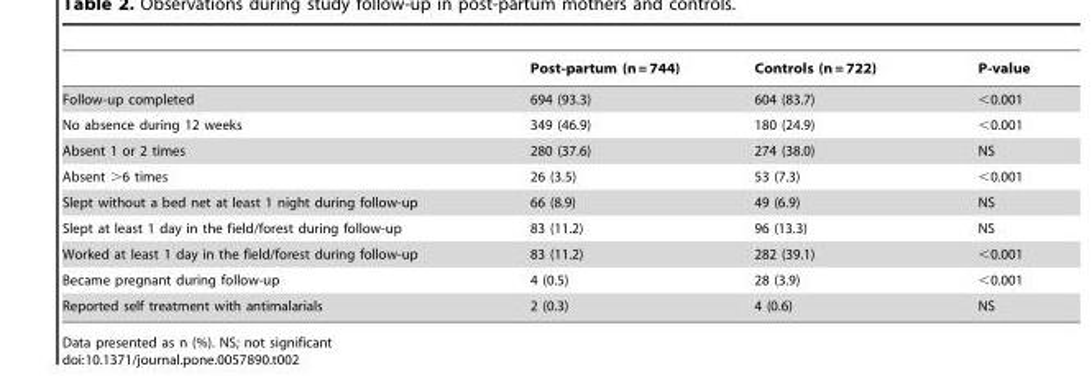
<table><thead><tr><td></td><td>Post-partum (n = 744)</td><td>Controls (n = 722)</td><td>P-value</td></tr></thead><tbody><tr><td>Follow-up completed</td><td>694 (93.3)</td><td>604 (83.7)</td><td>&lt;0.001</td></tr><tr><td>No absence during 12 weeks</td><td>349 (46.9)</td><td>180 (24.9)</td><td>&lt;0.001</td></tr><tr><td>Absent 1 or 2 times</td><td>280 (37.6)</td><td>274 (38.0)</td><td>NS</td></tr><tr><td>Absent &gt;6 times</td><td>26 (3.5)</td><td>53 (7.3)</td><td>&lt;0.001</td></tr><tr><td>Slept without a bed net at least 1 night during follow-up</td><td>66 (8.9)</td><td>49 (6.9)</td><td>NS</td></tr><tr><td>Slept at least 1 day in the field/forest during follow-up</td><td>83 (11.2)</td><td>96 (13.3)</td><td>NS</td></tr><tr><td>Worked at least 1 day in the field/forest during follow-up</td><td>83 (11.2)</td><td>282 (39.1)</td><td>&lt;0.001</td></tr><tr><td>Became pregnant during follow-up</td><td>4 (0.5)</td><td>28 (3.9)</td><td>&lt;0.001</td></tr><tr><td>Reported self treatment with antimalarials</td><td>2 (0.3)</td><td>4 (0.6)</td><td>NS</td></tr></tbody></table>